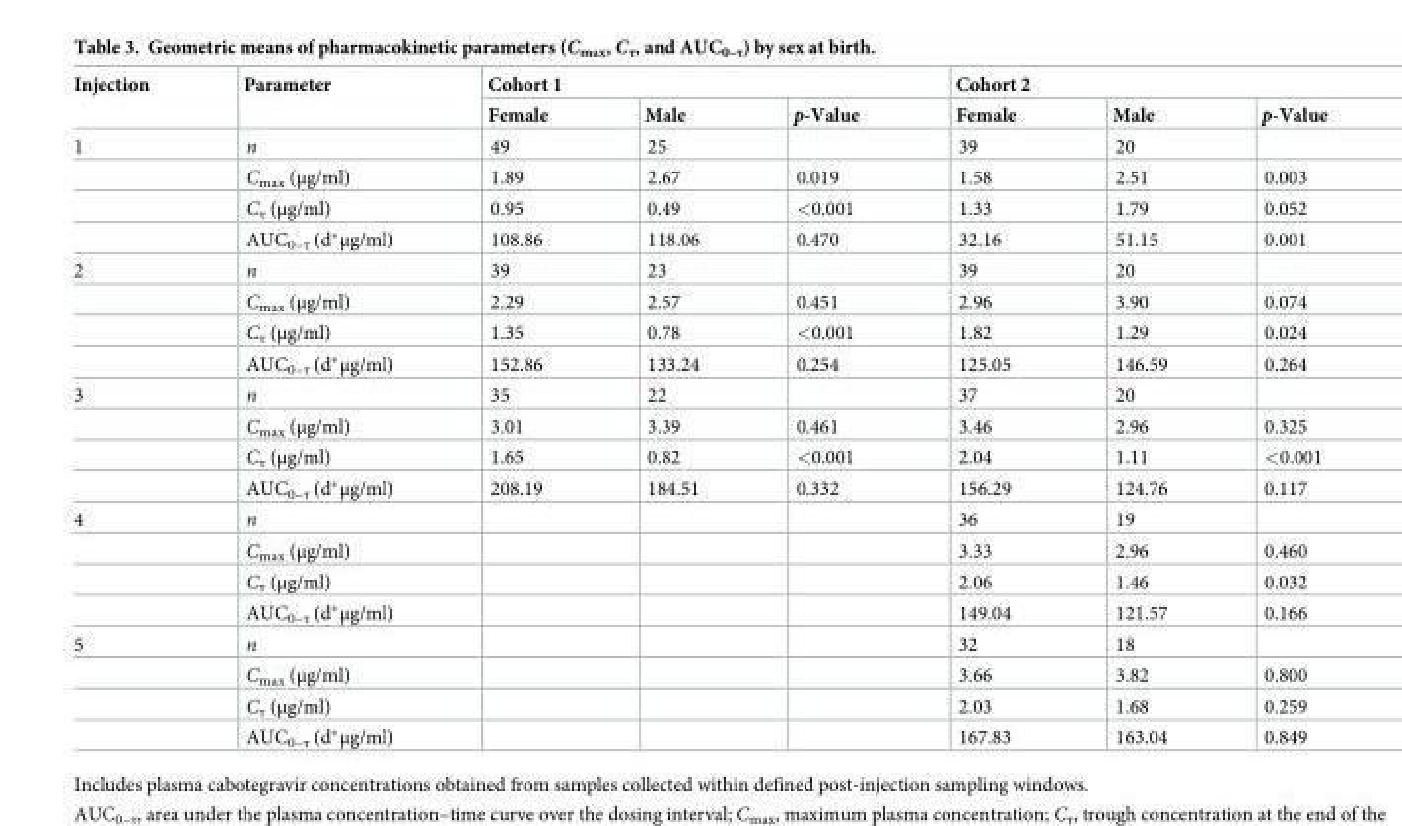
<table><thead><tr><td rowspan="2">Injection</td><td rowspan="2">Parameter</td><td colspan="3">Cohort 1</td><td colspan="3">Cohort 2</td></tr><tr><td>Female</td><td>Male</td><td>p-Value</td><td>Female</td><td>Male</td><td>p-Value</td></tr></thead><tbody><tr><td rowspan="4">1</td><td>n</td><td>49</td><td>25</td><td></td><td>39</td><td>20</td><td></td></tr><tr><td>C<sub>max</sub> (μg/ml)</td><td>1.89</td><td>2.67</td><td>0.019</td><td>1.58</td><td>2.51</td><td>0.003</td></tr><tr><td>C<sub>τ</sub> (μg/ml)</td><td>0.95</td><td>0.49</td><td>&lt;0.001</td><td>1.33</td><td>1.79</td><td>0.052</td></tr><tr><td>AUC<sub>0–τ</sub> (d*μg/ml)</td><td>108.86</td><td>118.06</td><td>0.470</td><td>32.16</td><td>51.15</td><td>0.001</td></tr><tr><td rowspan="4">2</td><td>n</td><td>39</td><td>23</td><td></td><td>39</td><td>20</td><td></td></tr><tr><td>C<sub>max</sub> (μg/ml)</td><td>2.29</td><td>2.57</td><td>0.451</td><td>2.96</td><td>3.90</td><td>0.074</td></tr><tr><td>C<sub>τ</sub> (μg/ml)</td><td>1.35</td><td>0.78</td><td>&lt;0.001</td><td>1.82</td><td>1.29</td><td>0.024</td></tr><tr><td>AUC<sub>0–τ</sub> (d*μg/ml)</td><td>152.86</td><td>133.24</td><td>0.254</td><td>125.05</td><td>146.59</td><td>0.264</td></tr><tr><td rowspan="4">3</td><td>n</td><td>35</td><td>22</td><td></td><td>37</td><td>20</td><td></td></tr><tr><td>C<sub>max</sub> (μg/ml)</td><td>3.01</td><td>3.39</td><td>0.461</td><td>3.46</td><td>2.96</td><td>0.325</td></tr><tr><td>C<sub>τ</sub> (μg/ml)</td><td>1.65</td><td>0.82</td><td>&lt;0.001</td><td>2.04</td><td>1.11</td><td>&lt;0.001</td></tr><tr><td>AUC<sub>0–τ</sub> (d*μg/ml)</td><td>208.19</td><td>184.51</td><td>0.332</td><td>156.29</td><td>124.76</td><td>0.117</td></tr><tr><td rowspan="4">4</td><td>n</td><td></td><td></td><td></td><td>36</td><td>19</td><td></td></tr><tr><td>C<sub>max</sub> (μg/ml)</td><td></td><td></td><td></td><td>3.33</td><td>2.96</td><td>0.460</td></tr><tr><td>C<sub>τ</sub> (μg/ml)</td><td></td><td></td><td></td><td>2.06</td><td>1.46</td><td>0.032</td></tr><tr><td>AUC<sub>0–τ</sub> (d*μg/ml)</td><td></td><td></td><td></td><td>149.04</td><td>121.57</td><td>0.166</td></tr><tr><td rowspan="4">5</td><td>n</td><td></td><td></td><td></td><td>32</td><td>18</td><td></td></tr><tr><td>C<sub>max</sub> (μg/ml)</td><td></td><td></td><td></td><td>3.66</td><td>3.82</td><td>0.800</td></tr><tr><td>C<sub>τ</sub> (μg/ml)</td><td></td><td></td><td></td><td>2.03</td><td>1.68</td><td>0.259</td></tr><tr><td>AUC<sub>0–τ</sub> (d*μg/ml)</td><td></td><td></td><td></td><td>167.83</td><td>163.04</td><td>0.849</td></tr></tbody></table>